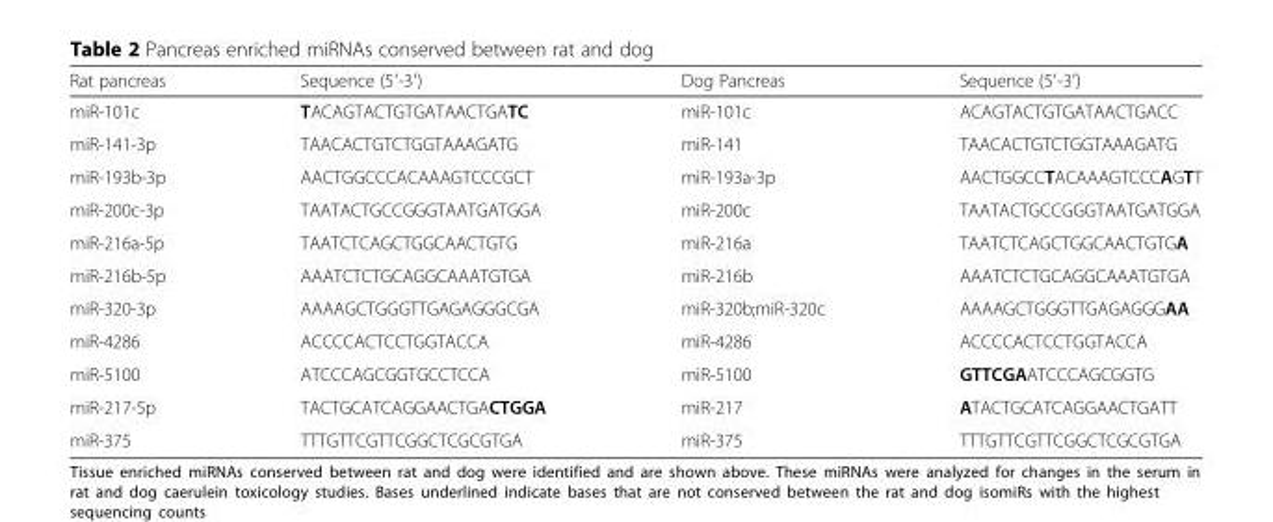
<table><thead><tr><td>Rat pancreas</td><td>Sequence (5′-3′)</td><td>Dog Pancreas</td><td>Sequence (5′-3′)</td></tr></thead><tbody><tr><td>miR-101c</td><td>TACAGTACTGTGATAACTGATC</td><td>miR-101c</td><td>ACAGTACTGTGATAACTGACC</td></tr><tr><td>miR-141-3p</td><td>TAACACTGTCTGGTAAAGATG</td><td>miR-141</td><td>TAACACTGTCTGGTAAAGATG</td></tr><tr><td>miR-193b-3p</td><td>AACTGGCCCACAAAGTCCCGCT</td><td>miR-193a-3p</td><td>AACTGGCCTACAAAGTCCCAGTT</td></tr><tr><td>miR-200c-3p</td><td>TAATACTGCCGGGTAATGATGGA</td><td>miR-200c</td><td>TAATACTGCCGGGTAATGATGGA</td></tr><tr><td>miR-216a-5p</td><td>TAATCTCAGCTGGCAACTGTG</td><td>miR-216a</td><td>TAATCTCAGCTGGCAACTGTGA</td></tr><tr><td>miR-216b-5p</td><td>AAATCTCTGCAGGCAAATGTGA</td><td>miR-216b</td><td>AAATCTCTGCAGGCAAATGTGA</td></tr><tr><td>miR-320-3p</td><td>AAAAGCTGGGTTGAGAGGGCGA</td><td>miR-320b;miR-320c</td><td>AAAAGCTGGGTTGAGAGGGAA</td></tr><tr><td>miR-4286</td><td>ACCCCACTCCTGGTACCA</td><td>miR-4286</td><td>ACCCCACTCCTGGTACCA</td></tr><tr><td>miR-5100</td><td>ATCCCAGCGGTGCCTCCA</td><td>miR-5100</td><td>GTTCGAATCCCAGCGGTG</td></tr><tr><td>miR-217-5p</td><td>TACTGCATCAGGAACTGACTGGA</td><td>miR-217</td><td>ATACTGCATCAGGAACTGATT</td></tr><tr><td>miR-375</td><td>TTTGTTCGTTCGGCTCGCGTGA</td><td>miR-375</td><td>TTTGTTCGTTCGGCTCGCGTGA</td></tr></tbody></table>